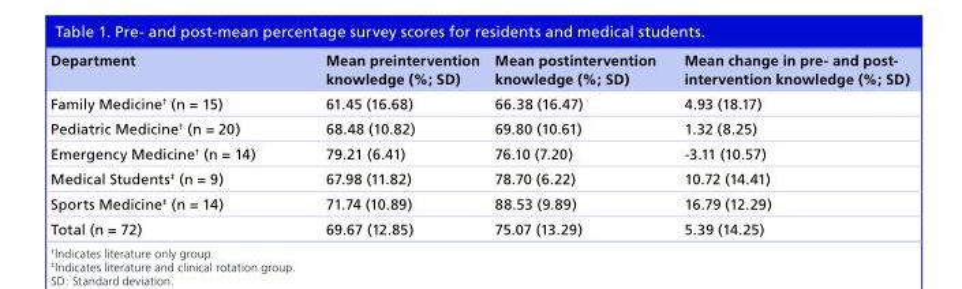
<table><thead><tr><td>Department</td><td>Mean preintervention knowledge (%; SD)</td><td>Mean postintervention knowledge (%; SD)</td><td>Mean change in pre- and post- intervention knowledge (%; SD)</td></tr></thead><tbody><tr><td>Family Medicine<sup>†</sup> (n = 15)</td><td>61.45 (16.68)</td><td>66.38 (16.47)</td><td>4.93 (18.17)</td></tr><tr><td>Pediatric Medicine<sup>†</sup> (n = 20)</td><td>68.48 (10.82)</td><td>69.80 (10.61)</td><td>1.32 (8.25)</td></tr><tr><td>Emergency Medicine<sup>†</sup> (n = 14)</td><td>79.21 (6.41)</td><td>76.10 (7.20)</td><td>-3.11 (10.57)</td></tr><tr><td>Medical Students<sup>‡</sup> (n = 9)</td><td>67.98 (11.82)</td><td>78.70 (6.22)</td><td>10.72 (14.41)</td></tr><tr><td>Sports Medicine<sup>‡</sup> (n = 14)</td><td>71.74 (10.89)</td><td>88.53 (9.89)</td><td>16.79 (12.29)</td></tr><tr><td>Total (n = 72)</td><td>69.67 (12.85)</td><td>75.07 (13.29)</td><td>5.39 (14.25)</td></tr></tbody></table>